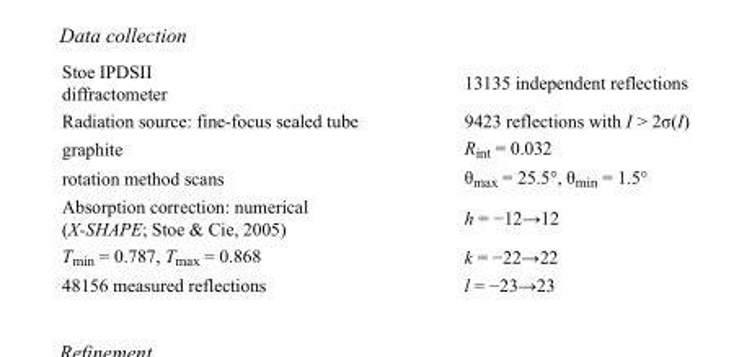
<table><tbody><tr><td>Stoe IPDSII diffractometer</td><td>13135 independent reflections</td></tr><tr><td>Radiation source: fine-focus sealed tube</td><td>9423 reflections with I &gt; 2σ(I)</td></tr><tr><td>graphite</td><td>R<sub>int</sub> = 0.032</td></tr><tr><td>rotation method scans</td><td>θ<sub>max</sub> = 25.5°, θ<sub>min</sub> = 1.5°</td></tr><tr><td>Absorption correction: numerical (X-SHAPE; Stoe &amp; Cie, 2005)</td><td>h = −12→12</td></tr><tr><td>T<sub>min</sub> = 0.787, T<sub>max</sub> = 0.868</td><td>k = −22→22</td></tr><tr><td>48156 measured reflections</td><td>l = −23→23</td></tr></tbody></table>